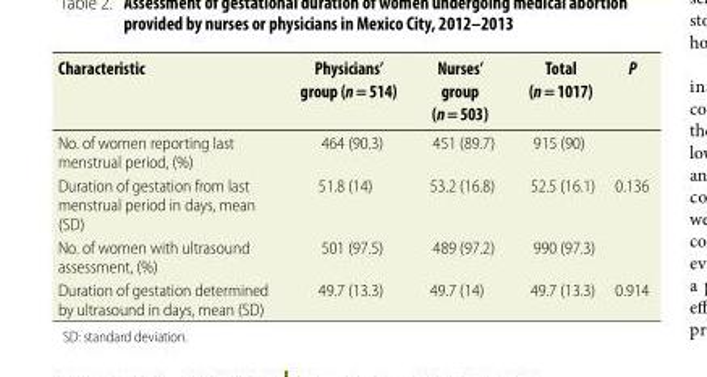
<table><thead><tr><td>Characteristic</td><td>Physicians’ group (n = 514)</td><td>Nurses’ group (n = 503)</td><td>Total (n = 1017)</td><td>P</td></tr></thead><tbody><tr><td>No. of women reporting last menstrual period, (%)</td><td>464 (90.3)</td><td>451 (89.7)</td><td>915 (90)</td><td></td></tr><tr><td>Duration of gestation from last menstrual period in days, mean (SD)</td><td>51.8 (14)</td><td>53.2 (16.8)</td><td>52.5 (16.1)</td><td>0.136</td></tr><tr><td>No. of women with ultrasound assessment, (%)</td><td>501 (97.5)</td><td>489 (97.2)</td><td>990 (97.3)</td><td></td></tr><tr><td>Duration of gestation determined by ultrasound in days, mean (SD)</td><td>49.7 (13.3)</td><td>49.7 (14)</td><td>49.7 (13.3)</td><td>0.914</td></tr></tbody></table>